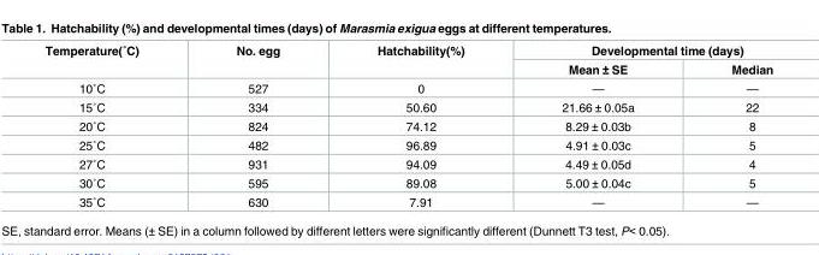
<table><thead><tr><td rowspan="2">Temperature(˚C)</td><td rowspan="2">No. egg</td><td rowspan="2">Hatchability(%)</td><td colspan="2">Developmental time (days)</td></tr><tr><td>Mean ± SE</td><td>Median</td></tr></thead><tbody><tr><td>10˚C</td><td>527</td><td>0</td><td>—</td><td>—</td></tr><tr><td>15˚C</td><td>334</td><td>50.60</td><td>21.66 ± 0.05a</td><td>22</td></tr><tr><td>20˚C</td><td>824</td><td>74.12</td><td>8.29 ± 0.03b</td><td>8</td></tr><tr><td>25˚C</td><td>482</td><td>96.89</td><td>4.91 ± 0.03c</td><td>5</td></tr><tr><td>27˚C</td><td>931</td><td>94.09</td><td>4.49 ± 0.05d</td><td>4</td></tr><tr><td>30˚C</td><td>595</td><td>89.08</td><td>5.00 ± 0.04c</td><td>5</td></tr><tr><td>35˚C</td><td>630</td><td>7.91</td><td>—</td><td>—</td></tr></tbody></table>